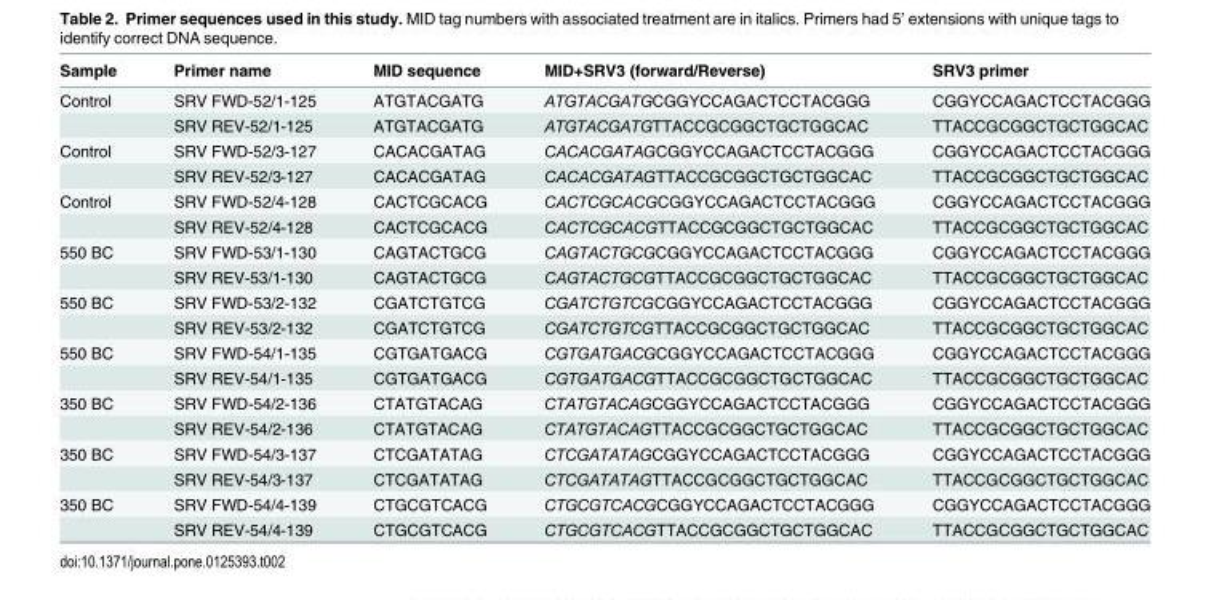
<table><thead><tr><td>Sample</td><td>Primer name</td><td>MID sequence</td><td>MID+SRV3 (forward/Reverse)</td><td>SRV3 primer</td></tr></thead><tbody><tr><td rowspan="2">Control</td><td>SRV FWD-52/1-125</td><td>ATGTACGATG</td><td>ATGTACGATGCGGYCCAGACTCCTACGGG</td><td>CGGYCCAGACTCCTACGGG</td></tr><tr><td>SRV REV-52/1-125</td><td>ATGTACGATG</td><td>ATGTACGATGTTACCGCGGCTGCTGGCAC</td><td>TTACCGCGGCTGCTGGCAC</td></tr><tr><td rowspan="2">Control</td><td>SRV FWD-52/3-127</td><td>CACACGATAG</td><td>CACACGATAGCGGYCCAGACTCCTACGGG</td><td>CGGYCCAGACTCCTACGGG</td></tr><tr><td>SRV REV-52/3-127</td><td>CACACGATAG</td><td>CACACGATAGTTACCGCGGCTGCTGGCAC</td><td>TTACCGCGGCTGCTGGCAC</td></tr><tr><td rowspan="2">Control</td><td>SRV FWD-52/4-128</td><td>CACTCGCACG</td><td>CACTCGCACGCGGYCCAGACTCCTACGGG</td><td>CGGYCCAGACTCCTACGGG</td></tr><tr><td>SRV REV-52/4-128</td><td>CACTCGCACG</td><td>CACTCGCACGTTACCGCGGCTGCTGGCAC</td><td>TTACCGCGGCTGCTGGCAC</td></tr><tr><td rowspan="2">550 BC</td><td>SRV FWD-53/1-130</td><td>CAGTACTGCG</td><td>CAGTACTGCGCGGYCCAGACTCCTACGGG</td><td>CGGYCCAGACTCCTACGGG</td></tr><tr><td>SRV REV-53/1-130</td><td>CAGTACTGCG</td><td>CAGTACTGCGTTACCGCGGCTGCTGGCAC</td><td>TTACCGCGGCTGCTGGCAC</td></tr><tr><td rowspan="2">550 BC</td><td>SRV FWD-53/2-132</td><td>CGATCTGTCG</td><td>CGATCTGTCGCGGYCCAGACTCCTACGGG</td><td>CGGYCCAGACTCCTACGGG</td></tr><tr><td>SRV REV-53/2-132</td><td>CGATCTGTCG</td><td>CGATCTGTCGTTACCGCGGCTGCTGGCAC</td><td>TTACCGCGGCTGCTGGCAC</td></tr><tr><td rowspan="2">550 BC</td><td>SRV FWD-54/1-135</td><td>CGTGATGACG</td><td>CGTGATGACGCGGYCCAGACTCCTACGGG</td><td>CGGYCCAGACTCCTACGGG</td></tr><tr><td>SRV REV-54/1-135</td><td>CGTGATGACG</td><td>CGTGATGACGTTACCGCGGCTGCTGGCAC</td><td>TTACCGCGGCTGCTGGCAC</td></tr><tr><td rowspan="2">350 BC</td><td>SRV FWD-54/2-136</td><td>CTATGTACAG</td><td>CTATGTACAGCGGYCCAGACTCCTACGGG</td><td>CGGYCCAGACTCCTACGGG</td></tr><tr><td>SRV REV-54/2-136</td><td>CTATGTACAG</td><td>CTATGTACAGTTACCGCGGCTGCTGGCAC</td><td>TTACCGCGGCTGCTGGCAC</td></tr><tr><td rowspan="2">350 BC</td><td>SRV FWD-54/3-137</td><td>CTCGATATAG</td><td>CTCGATATAGCGGYCCAGACTCCTACGGG</td><td>CGGYCCAGACTCCTACGGG</td></tr><tr><td>SRV REV-54/3-137</td><td>CTCGATATAG</td><td>CTCGATATAGTTACCGCGGCTGCTGGCAC</td><td>TTACCGCGGCTGCTGGCAC</td></tr><tr><td rowspan="2">350 BC</td><td>SRV FWD-54/4-139</td><td>CTGCGTCACG</td><td>CTGCGTCACGCGGYCCAGACTCCTACGGG</td><td>CGGYCCAGACTCCTACGGG</td></tr><tr><td>SRV REV-54/4-139</td><td>CTGCGTCACG</td><td>CTGCGTCACGTTACCGCGGCTGCTGGCAC</td><td>TTACCGCGGCTGCTGGCAC</td></tr></tbody></table>